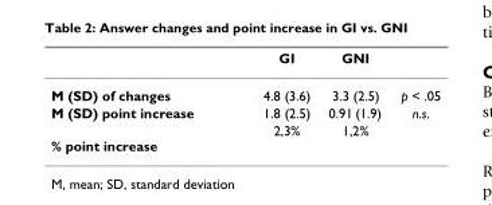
<table><thead><tr><td></td><td>GI</td><td>GNI</td><td></td></tr></thead><tbody><tr><td>M (SD) of changes</td><td>4.8 (3.6)</td><td>3.3 (2.5)</td><td>p &lt; .05</td></tr><tr><td>M (SD) point increase</td><td>1.8 (2.5)</td><td>0.91 (1.9)</td><td>n.s.</td></tr><tr><td>% point increase</td><td>2,3%</td><td>1,2%</td><td></td></tr></tbody></table>